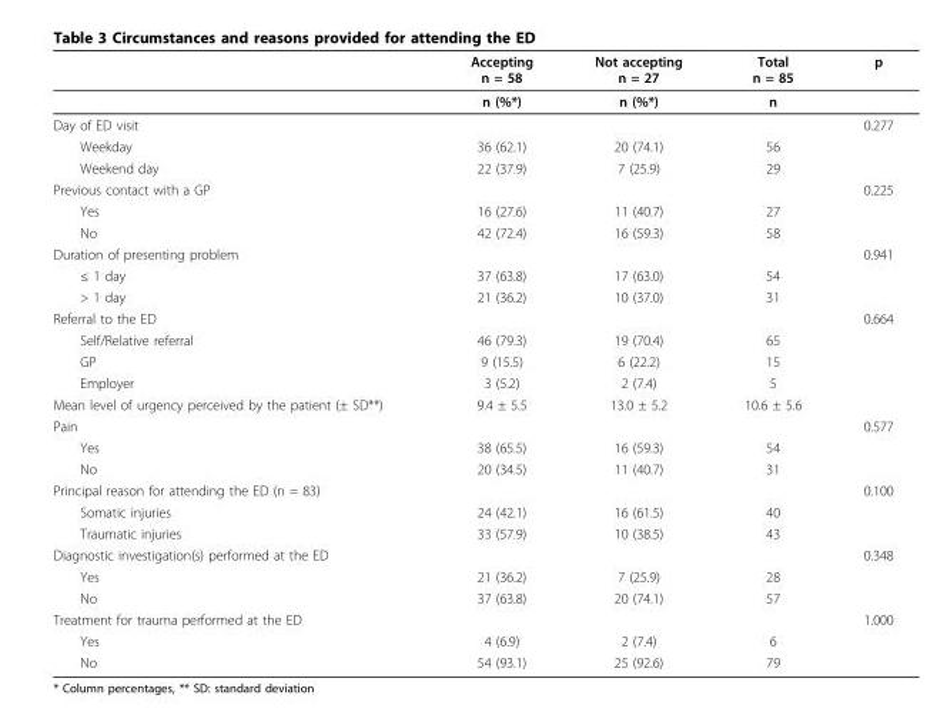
<table><thead><tr><td></td><td>Accepting n = 58</td><td>Not accepting n = 27</td><td>Total n = 85</td><td>p</td></tr></thead><tbody><tr><td></td><td>n (%*)</td><td>n (%*)</td><td>n</td><td></td></tr><tr><td>Day of ED visit</td><td></td><td></td><td></td><td>0.277</td></tr><tr><td>Weekday</td><td>36 (62.1)</td><td>20 (74.1)</td><td>56</td><td></td></tr><tr><td>Weekend day</td><td>22 (37.9)</td><td>7 (25.9)</td><td>29</td><td></td></tr><tr><td>Previous contact with a GP</td><td></td><td></td><td></td><td>0.225</td></tr><tr><td>Yes</td><td>16 (27.6)</td><td>11 (40.7)</td><td>27</td><td></td></tr><tr><td>No</td><td>42 (72.4)</td><td>16 (59.3)</td><td>58</td><td></td></tr><tr><td>Duration of presenting problem</td><td></td><td></td><td></td><td>0.941</td></tr><tr><td>≤ 1 day</td><td>37 (63.8)</td><td>17 (63.0)</td><td>54</td><td></td></tr><tr><td>&gt; 1 day</td><td>21 (36.2)</td><td>10 (37.0)</td><td>31</td><td></td></tr><tr><td>Referral to the ED</td><td></td><td></td><td></td><td>0.664</td></tr><tr><td>Self/Relative referral</td><td>46 (79.3)</td><td>19 (70.4)</td><td>65</td><td></td></tr><tr><td>GP</td><td>9 (15.5)</td><td>6 (22.2)</td><td>15</td><td></td></tr><tr><td>Employer</td><td>3 (5.2)</td><td>2 (7.4)</td><td>5</td><td></td></tr><tr><td>Mean level of urgency perceived by the patient (± SD**)</td><td>9.4 ± 5.5</td><td>13.0 ± 5.2</td><td>10.6 ± 5.6</td><td></td></tr><tr><td>Pain</td><td></td><td></td><td></td><td>0.577</td></tr><tr><td>Yes</td><td>38 (65.5)</td><td>16 (59.3)</td><td>54</td><td></td></tr><tr><td>No</td><td>20 (34.5)</td><td>11 (40.7)</td><td>31</td><td></td></tr><tr><td>Principal reason for attending the ED (n = 83)</td><td></td><td></td><td></td><td>0.100</td></tr><tr><td>Somatic injuries</td><td>24 (42.1)</td><td>16 (61.5)</td><td>40</td><td></td></tr><tr><td>Traumatic injuries</td><td>33 (57.9)</td><td>10 (38.5)</td><td>43</td><td></td></tr><tr><td>Diagnostic investigation(s) performed at the ED</td><td></td><td></td><td></td><td>0.348</td></tr><tr><td>Yes</td><td>21 (36.2)</td><td>7 (25.9)</td><td>28</td><td></td></tr><tr><td>No</td><td>37 (63.8)</td><td>20 (74.1)</td><td>57</td><td></td></tr><tr><td>Treatment for trauma performed at the ED</td><td></td><td></td><td></td><td>1.000</td></tr><tr><td>Yes</td><td>4 (6.9)</td><td>2 (7.4)</td><td>6</td><td></td></tr><tr><td>No</td><td>54 (93.1)</td><td>25 (92.6)</td><td>79</td><td></td></tr></tbody></table>